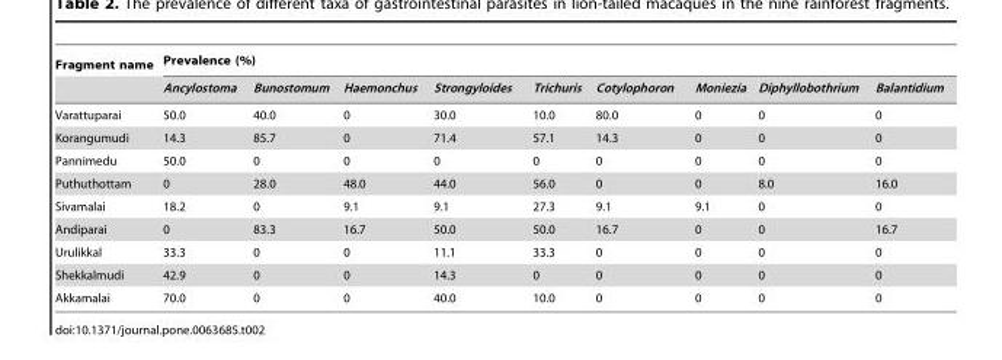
<table><thead><tr><td rowspan="2">Fragment name</td><td colspan="9">Prevalence (%)</td></tr><tr><td>Ancylostoma</td><td>Bunostomum</td><td>Haemonchus</td><td>Strongyloides</td><td>Trichuris</td><td>Cotylophoron</td><td>Moniezia</td><td>Diphyllobothrium</td><td>Balantidium</td></tr></thead><tbody><tr><td>Varattuparai</td><td>50.0</td><td>40.0</td><td>0</td><td>30.0</td><td>10.0</td><td>80.0</td><td>0</td><td>0</td><td>0</td></tr><tr><td>Korangumudi</td><td>14.3</td><td>85.7</td><td>0</td><td>71.4</td><td>57.1</td><td>14.3</td><td>0</td><td>0</td><td>0</td></tr><tr><td>Pannimedu</td><td>50.0</td><td>0</td><td>0</td><td>0</td><td>0</td><td>0</td><td>0</td><td>0</td><td>0</td></tr><tr><td>Puthuthottam</td><td>0</td><td>28.0</td><td>48.0</td><td>44.0</td><td>56.0</td><td>0</td><td>0</td><td>8.0</td><td>16.0</td></tr><tr><td>Sivamalai</td><td>18.2</td><td>0</td><td>9.1</td><td>9.1</td><td>27.3</td><td>9.1</td><td>9.1</td><td>0</td><td>0</td></tr><tr><td>Andiparai</td><td>0</td><td>83.3</td><td>16.7</td><td>50.0</td><td>50.0</td><td>16.7</td><td>0</td><td>0</td><td>16.7</td></tr><tr><td>Urulikkal</td><td>33.3</td><td>0</td><td>0</td><td>11.1</td><td>33.3</td><td>0</td><td>0</td><td>0</td><td>0</td></tr><tr><td>Shekkalmudi</td><td>42.9</td><td>0</td><td>0</td><td>14.3</td><td>0</td><td>0</td><td>0</td><td>0</td><td>0</td></tr><tr><td>Akkamalai</td><td>70.0</td><td>0</td><td>0</td><td>40.0</td><td>10.0</td><td>0</td><td>0</td><td>0</td><td>0</td></tr></tbody></table>